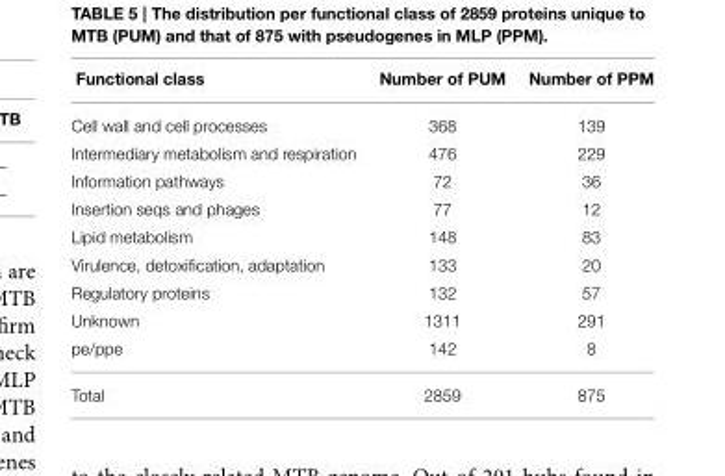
<table><thead><tr><td>Functional class</td><td>Number of PUM</td><td>Number of PPM</td></tr></thead><tbody><tr><td>Cell wall and cell processes</td><td>368</td><td>139</td></tr><tr><td>Intermediary metabolism and respiration</td><td>476</td><td>229</td></tr><tr><td>Information pathways</td><td>72</td><td>36</td></tr><tr><td>Insertion seqs and phages</td><td>77</td><td>12</td></tr><tr><td>Lipid metabolism</td><td>148</td><td>83</td></tr><tr><td>Virulence, detoxification, adaptation</td><td>133</td><td>20</td></tr><tr><td>Regulatory proteins</td><td>132</td><td>57</td></tr><tr><td>Unknown</td><td>1311</td><td>291</td></tr><tr><td>pe/ppe</td><td>142</td><td>8</td></tr><tr><td>Total</td><td>2859</td><td>875</td></tr></tbody></table>